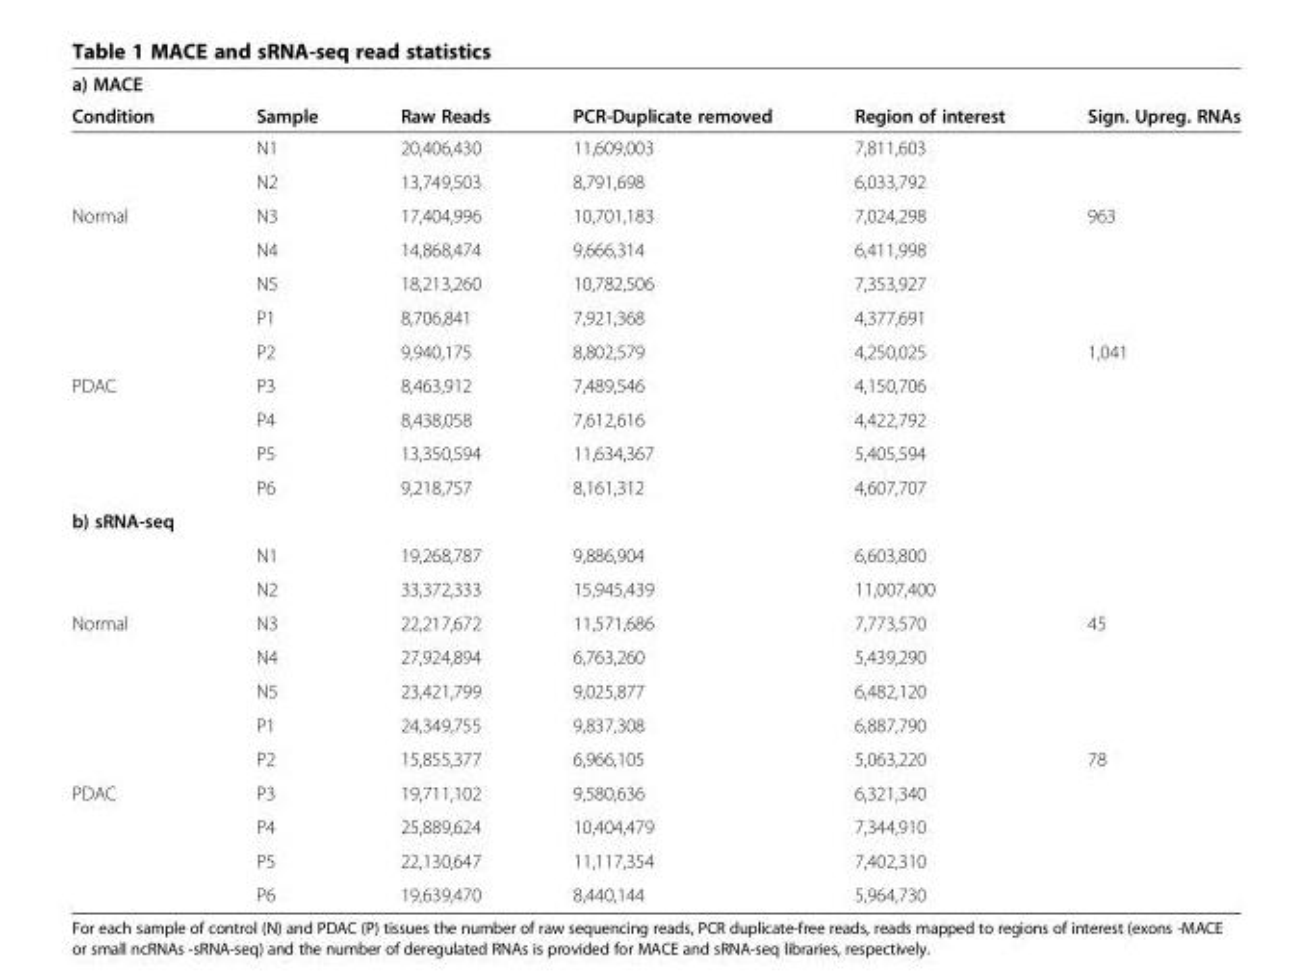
<table><thead><tr><td rowspan="2">a) MACE Condition</td><td rowspan="2">Sample</td><td rowspan="2">Raw Reads</td><td rowspan="2">PCR-Duplicate removed</td><td rowspan="2">Region of interest</td><td rowspan="2">Sign. Upreg. RNAs</td></tr><tr></tr></thead><tbody><tr><td></td><td>N1</td><td>20,406,430</td><td>11,609,003</td><td>7,811,603</td><td></td></tr><tr><td></td><td>N2</td><td>13,749,503</td><td>8,791,698</td><td>6,033,792</td><td></td></tr><tr><td rowspan="5">Normal</td><td>N3</td><td>17,404,996</td><td>10,701,183</td><td>7,024,298</td><td>963</td></tr><tr><td>N4</td><td>14,868,474</td><td>9,666,314</td><td>6,411,998</td><td></td></tr><tr><td>N5</td><td>18,213,260</td><td>10,782,506</td><td>7,353,927</td><td></td></tr><tr><td>P1</td><td>8,706,841</td><td>7,921,368</td><td>4,377,691</td><td></td></tr><tr><td>P2</td><td>9,940,175</td><td>8,802,579</td><td>4,250,025</td><td>1,041</td></tr><tr><td rowspan="4">PDAC</td><td>P3</td><td>8,463,912</td><td>7,489,546</td><td>4,150,706</td><td></td></tr><tr><td>P4</td><td>8,438,058</td><td>7,612,616</td><td>4,422,792</td><td></td></tr><tr><td>P5</td><td>13,350,594</td><td>11,634,367</td><td>5,405,594</td><td></td></tr><tr><td>P6</td><td>9,218,757</td><td>8,161,312</td><td>4,607,707</td><td></td></tr><tr><td colspan="6">b) sRNA-seq</td></tr><tr><td></td><td>N1</td><td>19,268,787</td><td>9,886,904</td><td>6,603,800</td><td></td></tr><tr><td></td><td>N2</td><td>33,372,333</td><td>15,945,439</td><td>11,007,400</td><td></td></tr><tr><td rowspan="5">Normal</td><td>N3</td><td>22,217,672</td><td>11,571,686</td><td>7,773,570</td><td>45</td></tr><tr><td>N4</td><td>27,924,894</td><td>6,763,260</td><td>5,439,290</td><td></td></tr><tr><td>N5</td><td>23,421,799</td><td>9,025,877</td><td>6,482,120</td><td></td></tr><tr><td>P1</td><td>24,349,755</td><td>9,837,308</td><td>6,887,790</td><td></td></tr><tr><td>P2</td><td>15,855,377</td><td>6,966,105</td><td>5,063,220</td><td>78</td></tr><tr><td rowspan="4">PDAC</td><td>P3</td><td>19,711,102</td><td>9,580,636</td><td>6,321,340</td><td></td></tr><tr><td>P4</td><td>25,889,624</td><td>10,404,479</td><td>7,344,910</td><td></td></tr><tr><td>P5</td><td>22,130,647</td><td>11,117,354</td><td>7,402,310</td><td></td></tr><tr><td>P6</td><td>19,639,470</td><td>8,440,144</td><td>5,964,730</td><td></td></tr></tbody></table>